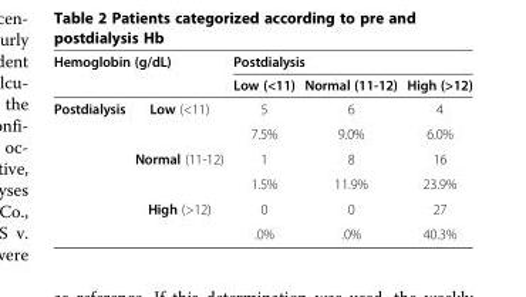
<table><thead><tr><td colspan="2">Hemoglobin (g/dL)</td><td colspan="3">Postdialysis</td></tr><tr><td></td><td></td><td>Low (&lt;11)</td><td>Normal (11-12)</td><td>High (&gt;12)</td></tr></thead><tbody><tr><td rowspan="6">Postdialysis</td><td>Low (&lt;11)</td><td>5</td><td>6</td><td>4</td></tr><tr><td></td><td>7.5%</td><td>9.0%</td><td>6.0%</td></tr><tr><td>Normal (11-12)</td><td>1</td><td>8</td><td>16</td></tr><tr><td></td><td>1.5%</td><td>11.9%</td><td>23.9%</td></tr><tr><td>High (&gt;12)</td><td>0</td><td>0</td><td>27</td></tr><tr><td></td><td>.0%</td><td>.0%</td><td>40.3%</td></tr></tbody></table>